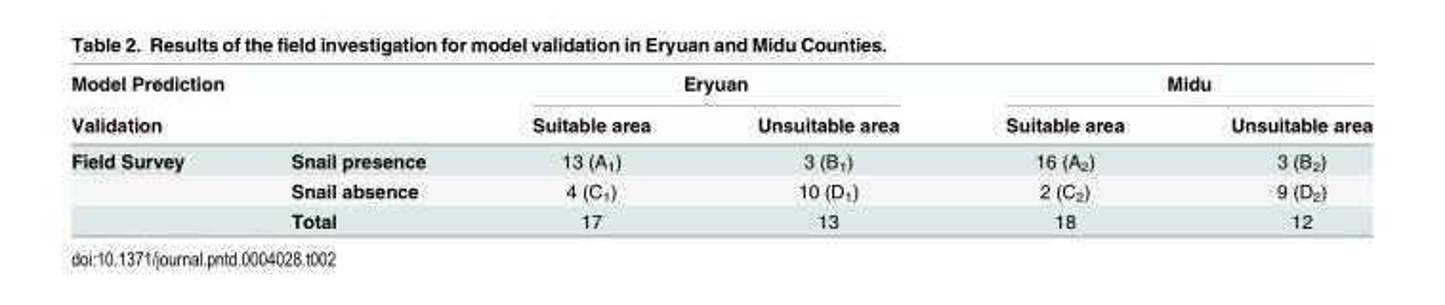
<table><thead><tr><td rowspan="2" colspan="2">Model Prediction Validation</td><td colspan="2">Eryuan</td><td colspan="2">Midu</td></tr><tr><td rowspan="2">Suitable area 13 (A<sub>1</sub>)</td><td rowspan="2">Unsuitable area 3 (B<sub>1</sub>)</td><td rowspan="2">Suitable area 16 (A<sub>2</sub>)</td><td rowspan="2">Unsuitable area 3 (B<sub>2</sub>)</td></tr><tr><td>Field Survey</td><td>Snail presence</td></tr></thead><tbody><tr><td></td><td>Snail absence</td><td>4 (C<sub>1</sub>)</td><td>10 (D<sub>1</sub>)</td><td>2 (C<sub>2</sub>)</td><td>9 (D<sub>2</sub>)</td></tr><tr><td></td><td>Total</td><td>17</td><td>13</td><td>18</td><td>12</td></tr></tbody></table>